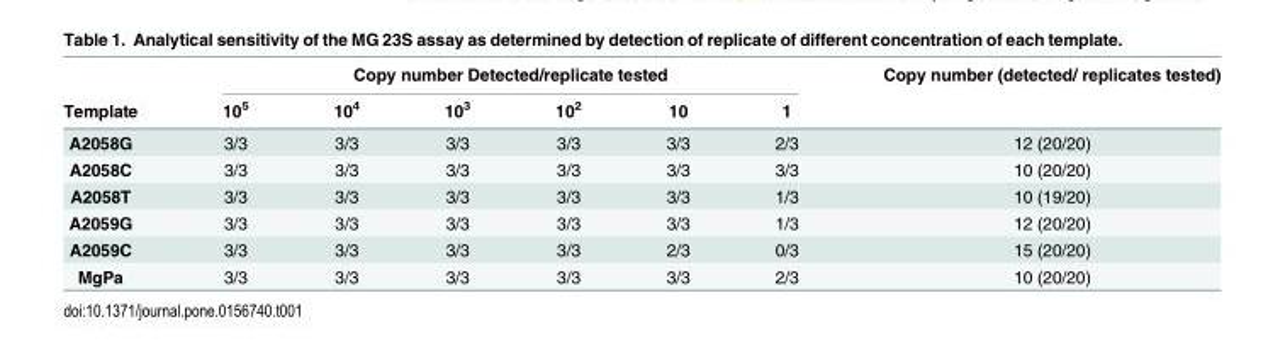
<table><thead><tr><td rowspan="2">Template</td><td colspan="6">Copy number Detected/replicate tested</td><td rowspan="2">Copy number (detected/ replicates tested)</td></tr><tr><td>10<sup>5</sup></td><td>10<sup>4</sup></td><td>10<sup>3</sup></td><td>10<sup>2</sup></td><td>10</td><td>1</td></tr></thead><tbody><tr><td>A2058G</td><td>3/3</td><td>3/3</td><td>3/3</td><td>3/3</td><td>3/3</td><td>2/3</td><td>12 (20/20)</td></tr><tr><td>A2058C</td><td>3/3</td><td>3/3</td><td>3/3</td><td>3/3</td><td>3/3</td><td>3/3</td><td>10 (20/20)</td></tr><tr><td>A2058T</td><td>3/3</td><td>3/3</td><td>3/3</td><td>3/3</td><td>3/3</td><td>1/3</td><td>10 (19/20)</td></tr><tr><td>A2059G</td><td>3/3</td><td>3/3</td><td>3/3</td><td>3/3</td><td>3/3</td><td>1/3</td><td>12 (20/20)</td></tr><tr><td>A2059C</td><td>3/3</td><td>3/3</td><td>3/3</td><td>3/3</td><td>2/3</td><td>0/3</td><td>15 (20/20)</td></tr><tr><td>MgPa</td><td>3/3</td><td>3/3</td><td>3/3</td><td>3/3</td><td>3/3</td><td>2/3</td><td>10 (20/20)</td></tr></tbody></table>